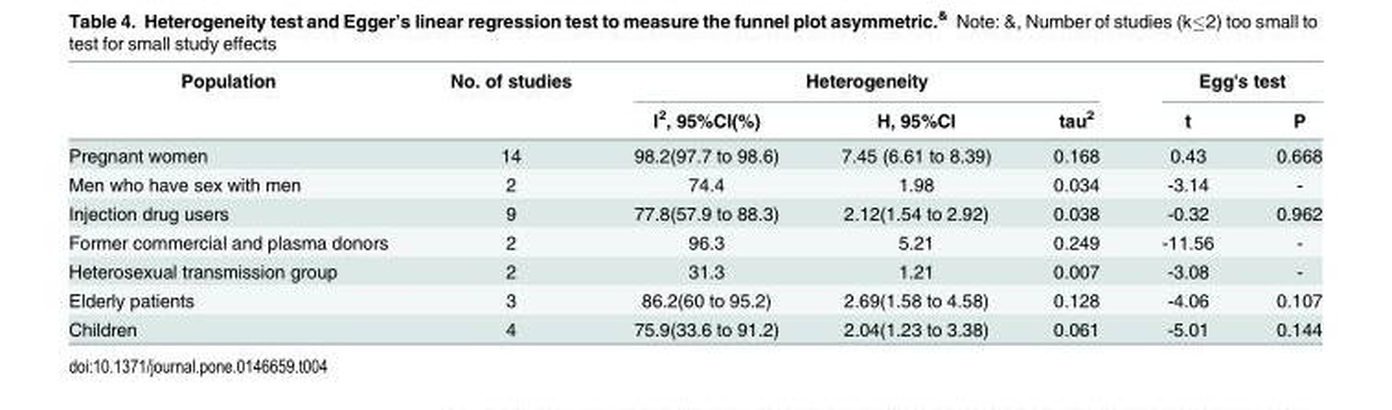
<table><thead><tr><td rowspan="2">Population</td><td rowspan="2">No. of studies</td><td colspan="3">Heterogeneity</td><td colspan="2">Egg&#x27;s test</td></tr><tr><td>I<sup>2</sup>, 95%CI(%)</td><td>H, 95%CI</td><td>tau<sup>2</sup></td><td>t</td><td>P</td></tr></thead><tbody><tr><td>Pregnant women</td><td>14</td><td>98.2(97.7 to 98.6)</td><td>7.45 (6.61 to 8.39)</td><td>0.168</td><td>0.43</td><td>0.668</td></tr><tr><td>Men who have sex with men</td><td>2</td><td>74.4</td><td>1.98</td><td>0.034</td><td>-3.14</td><td>-</td></tr><tr><td>Injection drug users</td><td>9</td><td>77.8(57.9 to 88.3)</td><td>2.12(1.54 to 2.92)</td><td>0.038</td><td>-0.32</td><td>0.962</td></tr><tr><td>Former commercial and plasma donors</td><td>2</td><td>96.3</td><td>5.21</td><td>0.249</td><td>-11.56</td><td>-</td></tr><tr><td>Heterosexual transmission group</td><td>2</td><td>31.3</td><td>1.21</td><td>0.007</td><td>-3.08</td><td>-</td></tr><tr><td>Elderly patients</td><td>3</td><td>86.2(60 to 95.2)</td><td>2.69(1.58 to 4.58)</td><td>0.128</td><td>-4.06</td><td>0.107</td></tr><tr><td>Children</td><td>4</td><td>75.9(33.6 to 91.2)</td><td>2.04(1.23 to 3.38)</td><td>0.061</td><td>-5.01</td><td>0.144</td></tr></tbody></table>